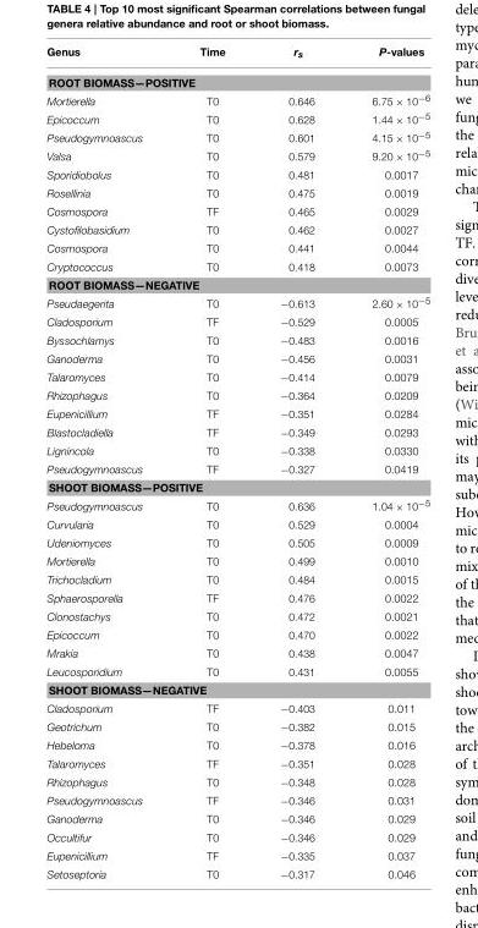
<table><thead><tr><td>Genus</td><td>Time</td><td>rs</td><td>P-values</td></tr></thead><tbody><tr><td colspan="4">ROOT BIOMASS—POSITIVE</td></tr><tr><td>Mortierella</td><td>T0</td><td>0.646</td><td>6.75 × 10<sup>−6</sup></td></tr><tr><td>Epicoccum</td><td>T0</td><td>0.628</td><td>1.44 × 10<sup>−5</sup></td></tr><tr><td>Pseudogymnoascus</td><td>T0</td><td>0.601</td><td>4.15 × 10<sup>−5</sup></td></tr><tr><td>Valsa</td><td>T0</td><td>0.579</td><td>9.20 × 10<sup>−5</sup></td></tr><tr><td>Sporidiobolus</td><td>T0</td><td>0.481</td><td>0.0017</td></tr><tr><td>Rosellinia</td><td>T0</td><td>0.475</td><td>0.0019</td></tr><tr><td>Cosmospora</td><td>TF</td><td>0.465</td><td>0.0029</td></tr><tr><td>Cystofilobasidium</td><td>T0</td><td>0.462</td><td>0.0027</td></tr><tr><td>Cosmospora</td><td>T0</td><td>0.441</td><td>0.0044</td></tr><tr><td>Cryptococcus</td><td>T0</td><td>0.418</td><td>0.0073</td></tr><tr><td colspan="4">ROOT BIOMASS—NEGATIVE</td></tr><tr><td>Pseudaegerita</td><td>T0</td><td>−0.613</td><td>2.60 × 10<sup>−5</sup></td></tr><tr><td>Cladosporium</td><td>TF</td><td>−0.529</td><td>0.0005</td></tr><tr><td>Byssochlamys</td><td>T0</td><td>−0.483</td><td>0.0016</td></tr><tr><td>Ganoderma</td><td>T0</td><td>−0.456</td><td>0.0031</td></tr><tr><td>Talaromyces</td><td>T0</td><td>−0.414</td><td>0.0079</td></tr><tr><td>Rhizophagus</td><td>T0</td><td>−0.364</td><td>0.0209</td></tr><tr><td>Eupenicillium</td><td>TF</td><td>−0.351</td><td>0.0284</td></tr><tr><td>Blastocladiella</td><td>TF</td><td>−0.349</td><td>0.0293</td></tr><tr><td>Lignincola</td><td>T0</td><td>−0.338</td><td>0.0330</td></tr><tr><td>Pseudogymnoascus</td><td>TF</td><td>−0.327</td><td>0.0419</td></tr><tr><td colspan="4">SHOOT BIOMASS—POSITIVE</td></tr><tr><td>Pseudogymnoascus</td><td>T0</td><td>0.636</td><td>1.04 × 10<sup>−5</sup></td></tr><tr><td>Curvularia</td><td>T0</td><td>0.529</td><td>0.0004</td></tr><tr><td>Udeniomyces</td><td>T0</td><td>0.505</td><td>0.0009</td></tr><tr><td>Mortierella</td><td>T0</td><td>0.499</td><td>0.0010</td></tr><tr><td>Trichocladium</td><td>T0</td><td>0.484</td><td>0.0015</td></tr><tr><td>Sphaerosporella</td><td>TF</td><td>0.476</td><td>0.0022</td></tr><tr><td>Clonostachys</td><td>T0</td><td>0.472</td><td>0.0021</td></tr><tr><td>Epicoccum</td><td>T0</td><td>0.470</td><td>0.0022</td></tr><tr><td>Mrakia</td><td>T0</td><td>0.438</td><td>0.0047</td></tr><tr><td>Leucosporidium</td><td>T0</td><td>0.431</td><td>0.0055</td></tr><tr><td colspan="4">SHOOT BIOMASS—NEGATIVE</td></tr><tr><td>Cladosporium</td><td>TF</td><td>−0.403</td><td>0.011</td></tr><tr><td>Geotrichum</td><td>T0</td><td>−0.382</td><td>0.015</td></tr><tr><td>Hebeloma</td><td>T0</td><td>−0.378</td><td>0.016</td></tr><tr><td>Talaromyces</td><td>TF</td><td>−0.351</td><td>0.028</td></tr><tr><td>Rhizophagus</td><td>T0</td><td>−0.348</td><td>0.028</td></tr><tr><td>Pseudogymnoascus</td><td>TF</td><td>−0.346</td><td>0.031</td></tr><tr><td>Ganoderma</td><td>T0</td><td>−0.346</td><td>0.029</td></tr><tr><td>Occultifur</td><td>T0</td><td>−0.346</td><td>0.029</td></tr><tr><td>Eupenicillium</td><td>TF</td><td>−0.335</td><td>0.037</td></tr><tr><td>Setoseptoria</td><td>T0</td><td>−0.317</td><td>0.046</td></tr></tbody></table>